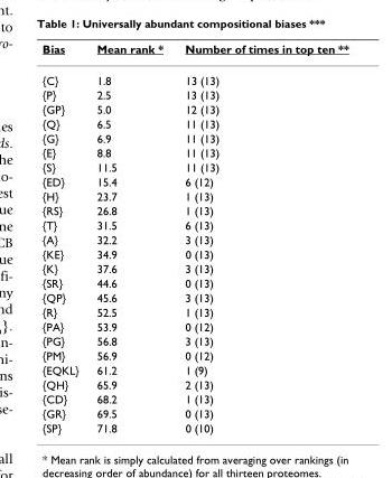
<table><thead><tr><td>Bias</td><td>Mean rank *</td><td>Number of times in top ten **</td></tr></thead><tbody><tr><td>{C}</td><td>1.8</td><td>13 (13)</td></tr><tr><td>{P}</td><td>2.5</td><td>13 (13)</td></tr><tr><td>{GP}</td><td>5.0</td><td>12 (13)</td></tr><tr><td>{Q}</td><td>6.5</td><td>11 (13)</td></tr><tr><td>{G}</td><td>6.9</td><td>11 (13)</td></tr><tr><td>{E}</td><td>8.8</td><td>11 (13)</td></tr><tr><td>{S}</td><td>11.5</td><td>11 (13)</td></tr><tr><td>{ED}</td><td>15.4</td><td>6 (12)</td></tr><tr><td>{H}</td><td>23.7</td><td>1 (13)</td></tr><tr><td>{RS}</td><td>26.8</td><td>1 (13)</td></tr><tr><td>{T}</td><td>31.5</td><td>6 (13)</td></tr><tr><td>{A}</td><td>32.2</td><td>3 (13)</td></tr><tr><td>{KE}</td><td>34.9</td><td>0 (13)</td></tr><tr><td>{K}</td><td>37.6</td><td>3 (13)</td></tr><tr><td>{SR}</td><td>44.6</td><td>0 (13)</td></tr><tr><td>{QP}</td><td>45.6</td><td>3 (13)</td></tr><tr><td>{R}</td><td>52.5</td><td>1 (13)</td></tr><tr><td>{PA}</td><td>53.9</td><td>0 (12)</td></tr><tr><td>{PG}</td><td>56.8</td><td>3 (13)</td></tr><tr><td>{PM}</td><td>56.9</td><td>0 (12)</td></tr><tr><td>{EQKL}</td><td>61.2</td><td>1 (9)</td></tr><tr><td>{QH}</td><td>65.9</td><td>2 (13)</td></tr><tr><td>{CD}</td><td>68.2</td><td>1 (13)</td></tr><tr><td>{GR}</td><td>69.5</td><td>0 (13)</td></tr><tr><td>{SP}</td><td>71.8</td><td>0 (10)</td></tr></tbody></table>